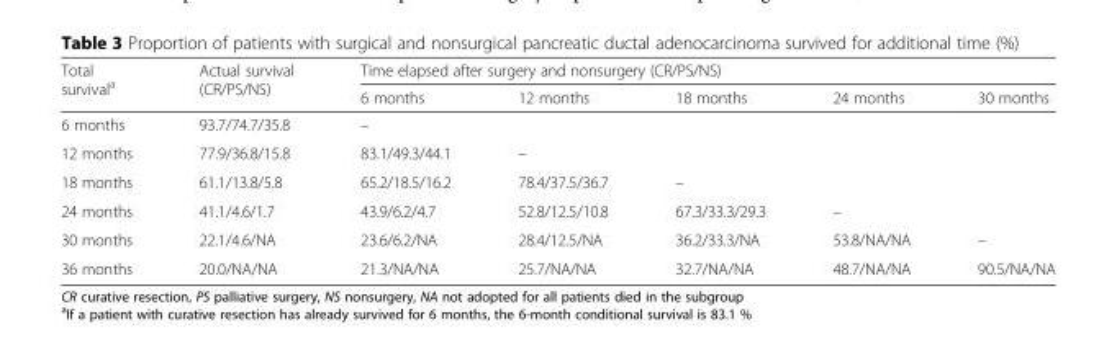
<table><thead><tr><td rowspan="2">Total survival<sup>a</sup></td><td rowspan="2">Actual survival (CR/PS/NS)</td><td colspan="5">Time elapsed after surgery and nonsurgery (CR/PS/NS)</td></tr><tr><td>6 months</td><td>12 months</td><td>18 months</td><td>24 months</td><td>30 months</td></tr></thead><tbody><tr><td>6 months</td><td>93.7/74.7/35.8</td><td>–</td><td></td><td></td><td></td><td></td></tr><tr><td>12 months</td><td>77.9/36.8/15.8</td><td>83.1/49.3/44.1</td><td>–</td><td></td><td></td><td></td></tr><tr><td>18 months</td><td>61.1/13.8/5.8</td><td>65.2/18.5/16.2</td><td>78.4/37.5/36.7</td><td>–</td><td></td><td></td></tr><tr><td>24 months</td><td>41.1/4.6/1.7</td><td>43.9/6.2/4.7</td><td>52.8/12.5/10.8</td><td>67.3/33.3/29.3</td><td>–</td><td></td></tr><tr><td>30 months</td><td>22.1/4.6/NA</td><td>23.6/6.2/NA</td><td>28.4/12.5/NA</td><td>36.2/33.3/NA</td><td>53.8/NA/NA</td><td>–</td></tr><tr><td>36 months</td><td>20.0/NA/NA</td><td>21.3/NA/NA</td><td>25.7/NA/NA</td><td>32.7/NA/NA</td><td>48.7/NA/NA</td><td>90.5/NA/NA</td></tr></tbody></table>